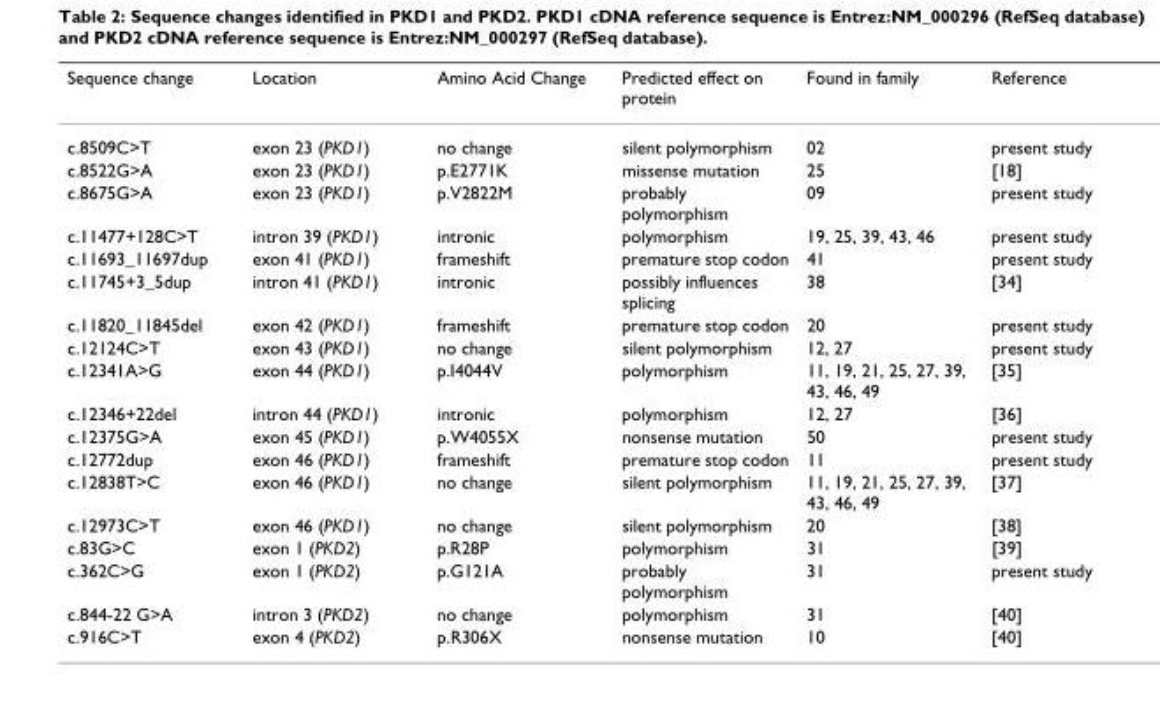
<table><thead><tr><td>Sequence change</td><td>Location</td><td>Amino Acid Change</td><td>Predicted effect on protein</td><td>Found in family</td><td>Reference</td></tr></thead><tbody><tr><td>c.8509C&gt;T</td><td>exon 23 (PKD1)</td><td>no change</td><td>silent polymorphism</td><td>02</td><td>present study</td></tr><tr><td>c.8522G&gt;A</td><td>exon 23 (PKD1)</td><td>p.E2771K</td><td>missense mutation</td><td>25</td><td>[18]</td></tr><tr><td>c.8675G&gt;A</td><td>exon 23 (PKD1)</td><td>p.V2822M</td><td>probably polymorphism</td><td>09</td><td>present study</td></tr><tr><td>c.11477+128C&gt;T</td><td>intron 39 (PKD1)</td><td>intronic</td><td>polymorphism</td><td>19, 25, 39, 43, 46</td><td>present study</td></tr><tr><td>c.11693_11697dup</td><td>exon 41 (PKD1)</td><td>frameshift</td><td>premature stop codon</td><td>41</td><td>present study</td></tr><tr><td>c.11745+3_5dup</td><td>intron 41 (PKD1)</td><td>intronic</td><td>possibly influences splicing</td><td>38</td><td>[34]</td></tr><tr><td>c.11820_11845del</td><td>exon 42 (PKD1)</td><td>frameshift</td><td>premature stop codon</td><td>20</td><td>present study</td></tr><tr><td>c.12124C&gt;T</td><td>exon 43 (PKD1)</td><td>no change</td><td>silent polymorphism</td><td>12, 27</td><td>present study</td></tr><tr><td>c.12341A&gt;G</td><td>exon 44 (PKD1)</td><td>p.I4044V</td><td>polymorphism</td><td>11, 19, 21, 25, 27, 39, 43, 46, 49</td><td>[35]</td></tr><tr><td>c.12346+22del</td><td>intron 44 (PKD1)</td><td>intronic</td><td>polymorphism</td><td>12, 27</td><td>[36]</td></tr><tr><td>c.12375G&gt;A</td><td>exon 45 (PKD1)</td><td>p.W4055X</td><td>nonsense mutation</td><td>50</td><td>present study</td></tr><tr><td>c.12772dup</td><td>exon 46 (PKD1)</td><td>frameshift</td><td>premature stop codon</td><td>11</td><td>present study</td></tr><tr><td>c.12838T&gt;C</td><td>exon 46 (PKD1)</td><td>no change</td><td>silent polymorphism</td><td>11, 19, 21, 25, 27, 39, 43, 46, 49</td><td>[37]</td></tr><tr><td>c.12973C&gt;T</td><td>exon 46 (PKD1)</td><td>no change</td><td>silent polymorphism</td><td>20</td><td>[38]</td></tr><tr><td>c.83G&gt;C</td><td>exon 1 (PKD2)</td><td>p.R28P</td><td>polymorphism</td><td>31</td><td>[39]</td></tr><tr><td>c.362C&gt;G</td><td>exon 1 (PKD2)</td><td>p.G121A</td><td>probably polymorphism</td><td>31</td><td>present study</td></tr><tr><td>c.844-22 G&gt;A</td><td>intron 3 (PKD2)</td><td>no change</td><td>polymorphism</td><td>31</td><td>[40]</td></tr><tr><td>c.916C&gt;T</td><td>exon 4 (PKD2)</td><td>p.R306X</td><td>nonsense mutation</td><td>10</td><td>[40]</td></tr></tbody></table>